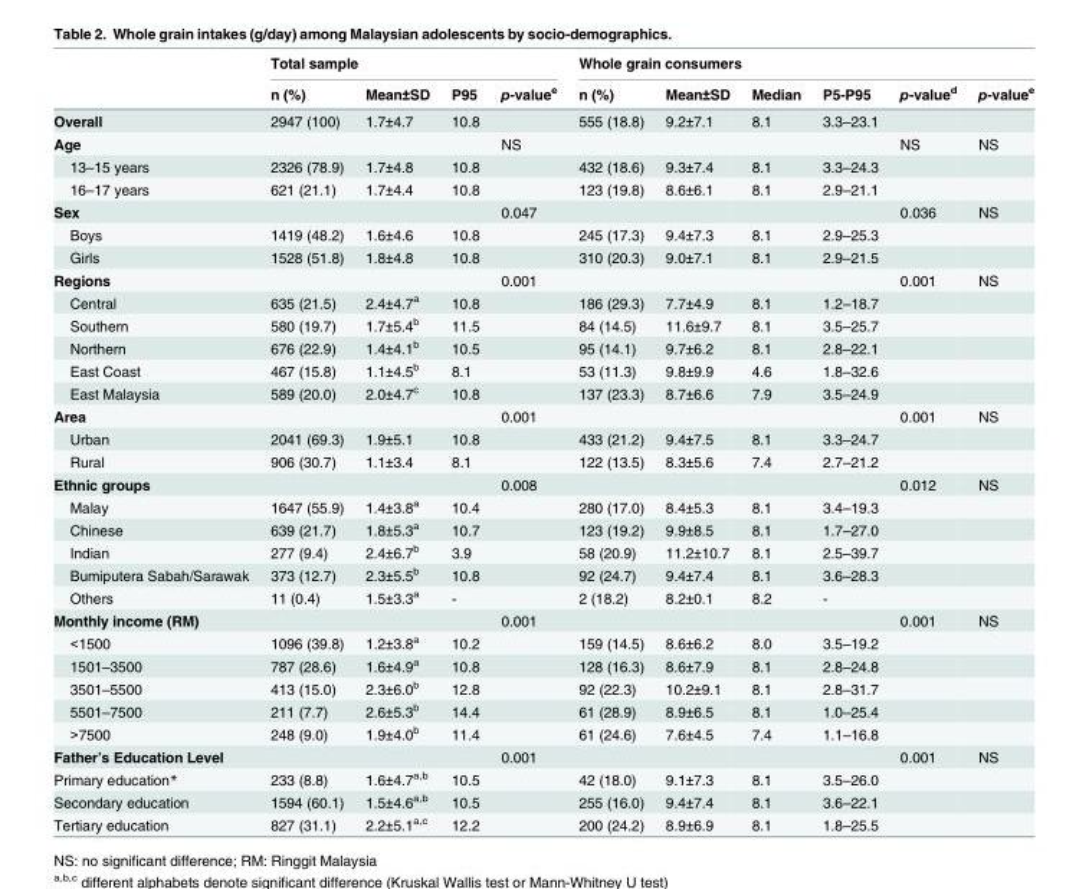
<table><thead><tr><td rowspan="2"></td><td colspan="4">Total sample</td><td colspan="6">Whole grain consumers</td></tr><tr><td>n (%)</td><td>Mean±SD</td><td>P95</td><td>p-value<sup>e</sup></td><td>n (%)</td><td>Mean±SD</td><td>Median</td><td>P5-P95</td><td>p-value<sup>d</sup></td><td>p-value<sup>e</sup></td></tr></thead><tbody><tr><td>Overall</td><td>2947 (100)</td><td>1.7±4.7</td><td>10.8</td><td></td><td>555 (18.8)</td><td>9.2±7.1</td><td>8.1</td><td>3.3–23.1</td><td></td><td></td></tr><tr><td>Age</td><td></td><td></td><td></td><td>NS</td><td></td><td></td><td></td><td></td><td>NS</td><td>NS</td></tr><tr><td>13–15 years</td><td>2326 (78.9)</td><td>1.7±4.8</td><td>10.8</td><td></td><td>432 (18.6)</td><td>9.3±7.4</td><td>8.1</td><td>3.3–24.3</td><td></td><td></td></tr><tr><td>16–17 years</td><td>621 (21.1)</td><td>1.7±4.4</td><td>10.8</td><td></td><td>123 (19.8)</td><td>8.6±6.1</td><td>8.1</td><td>2.9–21.1</td><td></td><td></td></tr><tr><td>Sex</td><td></td><td></td><td></td><td>0.047</td><td></td><td></td><td></td><td></td><td>0.036</td><td>NS</td></tr><tr><td>Boys</td><td>1419 (48.2)</td><td>1.6±4.6</td><td>10.8</td><td></td><td>245 (17.3)</td><td>9.4±7.3</td><td>8.1</td><td>2.9–25.3</td><td></td><td></td></tr><tr><td>Girls</td><td>1528 (51.8)</td><td>1.8±4.8</td><td>10.8</td><td></td><td>310 (20.3)</td><td>9.0±7.1</td><td>8.1</td><td>2.9–21.5</td><td></td><td></td></tr><tr><td>Regions</td><td></td><td></td><td></td><td>0.001</td><td></td><td></td><td></td><td></td><td>0.001</td><td>NS</td></tr><tr><td>Central</td><td>635 (21.5)</td><td>2.4±4.7<sup>a</sup></td><td>10.8</td><td></td><td>186 (29.3)</td><td>7.7±4.9</td><td>8.1</td><td>1.2–18.7</td><td></td><td></td></tr><tr><td>Southern</td><td>580 (19.7)</td><td>1.7±5.4<sup>b</sup></td><td>11.5</td><td></td><td>84 (14.5)</td><td>11.6±9.7</td><td>8.1</td><td>3.5–25.7</td><td></td><td></td></tr><tr><td>Northern</td><td>676 (22.9)</td><td>1.4±4.1<sup>b</sup></td><td>10.5</td><td></td><td>95 (14.1)</td><td>9.7±6.2</td><td>8.1</td><td>2.8–22.1</td><td></td><td></td></tr><tr><td>East Coast</td><td>467 (15.8)</td><td>1.1±4.5<sup>b</sup></td><td>8.1</td><td></td><td>53 (11.3)</td><td>9.8±9.9</td><td>4.6</td><td>1.8–32.6</td><td></td><td></td></tr><tr><td>East Malaysia</td><td>589 (20.0)</td><td>2.0±4.7<sup>c</sup></td><td>10.8</td><td></td><td>137 (23.3)</td><td>8.7±6.6</td><td>7.9</td><td>3.5–24.9</td><td></td><td></td></tr><tr><td>Area</td><td></td><td></td><td></td><td>0.001</td><td></td><td></td><td></td><td></td><td>0.001</td><td>NS</td></tr><tr><td>Urban</td><td>2041 (69.3)</td><td>1.9±5.1</td><td>10.8</td><td></td><td>433 (21.2)</td><td>9.4±7.5</td><td>8.1</td><td>3.3–24.7</td><td></td><td></td></tr><tr><td>Rural</td><td>906 (30.7)</td><td>1.1±3.4</td><td>8.1</td><td></td><td>122 (13.5)</td><td>8.3±5.6</td><td>7.4</td><td>2.7–21.2</td><td></td><td></td></tr><tr><td>Ethnic groups</td><td></td><td></td><td></td><td>0.008</td><td></td><td></td><td></td><td></td><td>0.012</td><td>NS</td></tr><tr><td>Malay</td><td>1647 (55.9)</td><td>1.4±3.8<sup>a</sup></td><td>10.4</td><td></td><td>280 (17.0)</td><td>8.4±5.3</td><td>8.1</td><td>3.4–19.3</td><td></td><td></td></tr><tr><td>Chinese</td><td>639 (21.7)</td><td>1.8±5.3<sup>a</sup></td><td>10.7</td><td></td><td>123 (19.2)</td><td>9.9±8.5</td><td>8.1</td><td>1.7–27.0</td><td></td><td></td></tr><tr><td>Indian</td><td>277 (9.4)</td><td>2.4±6.7<sup>b</sup></td><td>3.9</td><td></td><td>58 (20.9)</td><td>11.2±10.7</td><td>8.1</td><td>2.5–39.7</td><td></td><td></td></tr><tr><td>Bumiputera Sabah/Sarawak</td><td>373 (12.7)</td><td>2.3±5.5<sup>b</sup></td><td>10.8</td><td></td><td>92 (24.7)</td><td>9.4±7.4</td><td>8.1</td><td>3.6–28.3</td><td></td><td></td></tr><tr><td>Others</td><td>11 (0.4)</td><td>1.5±3.3<sup>a</sup></td><td>-</td><td></td><td>2 (18.2)</td><td>8.2±0.1</td><td>8.2</td><td>-</td><td></td><td></td></tr><tr><td>Monthly income (RM)</td><td></td><td></td><td></td><td>0.001</td><td></td><td></td><td></td><td></td><td>0.001</td><td>NS</td></tr><tr><td>&lt;1500</td><td>1096 (39.8)</td><td>1.2±3.8<sup>a</sup></td><td>10.2</td><td></td><td>159 (14.5)</td><td>8.6±6.2</td><td>8.0</td><td>3.5–19.2</td><td></td><td></td></tr><tr><td>1501–3500</td><td>787 (28.6)</td><td>1.6±4.9<sup>a</sup></td><td>10.8</td><td></td><td>128 (16.3)</td><td>8.6±7.9</td><td>8.1</td><td>2.8–24.8</td><td></td><td></td></tr><tr><td>3501–5500</td><td>413 (15.0)</td><td>2.3±6.0<sup>b</sup></td><td>12.8</td><td></td><td>92 (22.3)</td><td>10.2±9.1</td><td>8.1</td><td>2.8–31.7</td><td></td><td></td></tr><tr><td>5501–7500</td><td>211 (7.7)</td><td>2.6±5.3<sup>b</sup></td><td>14.4</td><td></td><td>61 (28.9)</td><td>8.9±6.5</td><td>8.1</td><td>1.0–25.4</td><td></td><td></td></tr><tr><td>&gt;7500</td><td>248 (9.0)</td><td>1.9±4.0<sup>b</sup></td><td>11.4</td><td></td><td>61 (24.6)</td><td>7.6±4.5</td><td>7.4</td><td>1.1–16.8</td><td></td><td></td></tr><tr><td>Father’s Education Level</td><td></td><td></td><td></td><td>0.001</td><td></td><td></td><td></td><td></td><td>0.001</td><td>NS</td></tr><tr><td>Primary education*</td><td>233 (8.8)</td><td>1.6±4.7<sup>a,b</sup></td><td>10.5</td><td></td><td>42 (18.0)</td><td>9.1±7.3</td><td>8.1</td><td>3.5–26.0</td><td></td><td></td></tr><tr><td>Secondary education</td><td>1594 (60.1)</td><td>1.5±4.6<sup>a,b</sup></td><td>10.5</td><td></td><td>255 (16.0)</td><td>9.4±7.4</td><td>8.1</td><td>3.6–22.1</td><td></td><td></td></tr><tr><td>Tertiary education</td><td>827 (31.1)</td><td>2.2±5.1<sup>a,c</sup></td><td>12.2</td><td></td><td>200 (24.2)</td><td>8.9±6.9</td><td>8.1</td><td>1.8–25.5</td><td></td><td></td></tr></tbody></table>